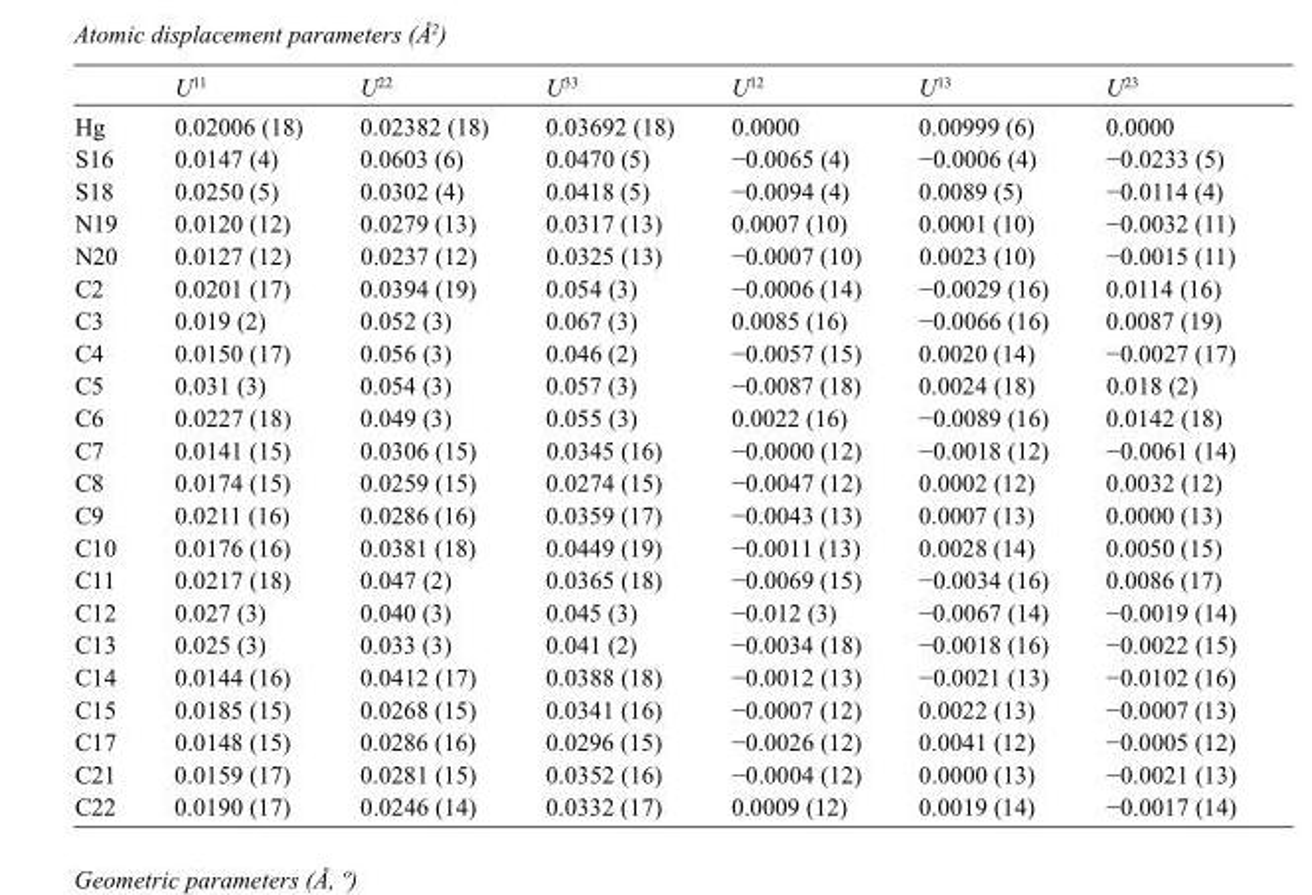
<table><thead><tr><td></td><td>U<sup>11</sup></td><td>U<sup>22</sup></td><td>U<sup>33</sup></td><td>U<sup>12</sup></td><td>U<sup>13</sup></td><td>U<sup>23</sup></td></tr></thead><tbody><tr><td>Hg</td><td>0.02006 (18)</td><td>0.02382 (18)</td><td>0.03692 (18)</td><td>0.0000</td><td>0.00999 (6)</td><td>0.0000</td></tr><tr><td>S16</td><td>0.0147 (4)</td><td>0.0603 (6)</td><td>0.0470 (5)</td><td>−0.0065 (4)</td><td>−0.0006 (4)</td><td>−0.0233 (5)</td></tr><tr><td>S18</td><td>0.0250 (5)</td><td>0.0302 (4)</td><td>0.0418 (5)</td><td>−0.0094 (4)</td><td>0.0089 (5)</td><td>−0.0114 (4)</td></tr><tr><td>N19</td><td>0.0120 (12)</td><td>0.0279 (13)</td><td>0.0317 (13)</td><td>0.0007 (10)</td><td>0.0001 (10)</td><td>−0.0032 (11)</td></tr><tr><td>N20</td><td>0.0127 (12)</td><td>0.0237 (12)</td><td>0.0325 (13)</td><td>−0.0007 (10)</td><td>0.0023 (10)</td><td>−0.0015 (11)</td></tr><tr><td>C2</td><td>0.0201 (17)</td><td>0.0394 (19)</td><td>0.054 (3)</td><td>−0.0006 (14)</td><td>−0.0029 (16)</td><td>0.0114 (16)</td></tr><tr><td>C3</td><td>0.019 (2)</td><td>0.052 (3)</td><td>0.067 (3)</td><td>0.0085 (16)</td><td>−0.0066 (16)</td><td>0.0087 (19)</td></tr><tr><td>C4</td><td>0.0150 (17)</td><td>0.056 (3)</td><td>0.046 (2)</td><td>−0.0057 (15)</td><td>0.0020 (14)</td><td>−0.0027 (17)</td></tr><tr><td>C5</td><td>0.031 (3)</td><td>0.054 (3)</td><td>0.057 (3)</td><td>−0.0087 (18)</td><td>0.0024 (18)</td><td>0.018 (2)</td></tr><tr><td>C6</td><td>0.0227 (18)</td><td>0.049 (3)</td><td>0.055 (3)</td><td>0.0022 (16)</td><td>−0.0089 (16)</td><td>0.0142 (18)</td></tr><tr><td>C7</td><td>0.0141 (15)</td><td>0.0306 (15)</td><td>0.0345 (16)</td><td>−0.0000 (12)</td><td>−0.0018 (12)</td><td>−0.0061 (14)</td></tr><tr><td>C8</td><td>0.0174 (15)</td><td>0.0259 (15)</td><td>0.0274 (15)</td><td>−0.0047 (12)</td><td>0.0002 (12)</td><td>0.0032 (12)</td></tr><tr><td>C9</td><td>0.0211 (16)</td><td>0.0286 (16)</td><td>0.0359 (17)</td><td>−0.0043 (13)</td><td>0.0007 (13)</td><td>0.0000 (13)</td></tr><tr><td>C10</td><td>0.0176 (16)</td><td>0.0381 (18)</td><td>0.0449 (19)</td><td>−0.0011 (13)</td><td>0.0028 (14)</td><td>0.0050 (15)</td></tr><tr><td>C11</td><td>0.0217 (18)</td><td>0.047 (2)</td><td>0.0365 (18)</td><td>−0.0069 (15)</td><td>−0.0034 (16)</td><td>0.0086 (17)</td></tr><tr><td>C12</td><td>0.027 (3)</td><td>0.040 (3)</td><td>0.045 (3)</td><td>−0.012 (3)</td><td>−0.0067 (14)</td><td>−0.0019 (14)</td></tr><tr><td>C13</td><td>0.025 (3)</td><td>0.033 (3)</td><td>0.041 (2)</td><td>−0.0034 (18)</td><td>−0.0018 (16)</td><td>−0.0022 (15)</td></tr><tr><td>C14</td><td>0.0144 (16)</td><td>0.0412 (17)</td><td>0.0388 (18)</td><td>−0.0012 (13)</td><td>−0.0021 (13)</td><td>−0.0102 (16)</td></tr><tr><td>C15</td><td>0.0185 (15)</td><td>0.0268 (15)</td><td>0.0341 (16)</td><td>−0.0007 (12)</td><td>0.0022 (13)</td><td>−0.0007 (13)</td></tr><tr><td>C17</td><td>0.0148 (15)</td><td>0.0286 (16)</td><td>0.0296 (15)</td><td>−0.0026 (12)</td><td>0.0041 (12)</td><td>−0.0005 (12)</td></tr><tr><td>C21</td><td>0.0159 (17)</td><td>0.0281 (15)</td><td>0.0352 (16)</td><td>−0.0004 (12)</td><td>0.0000 (13)</td><td>−0.0021 (13)</td></tr><tr><td>C22</td><td>0.0190 (17)</td><td>0.0246 (14)</td><td>0.0332 (17)</td><td>0.0009 (12)</td><td>0.0019 (14)</td><td>−0.0017 (14)</td></tr></tbody></table>